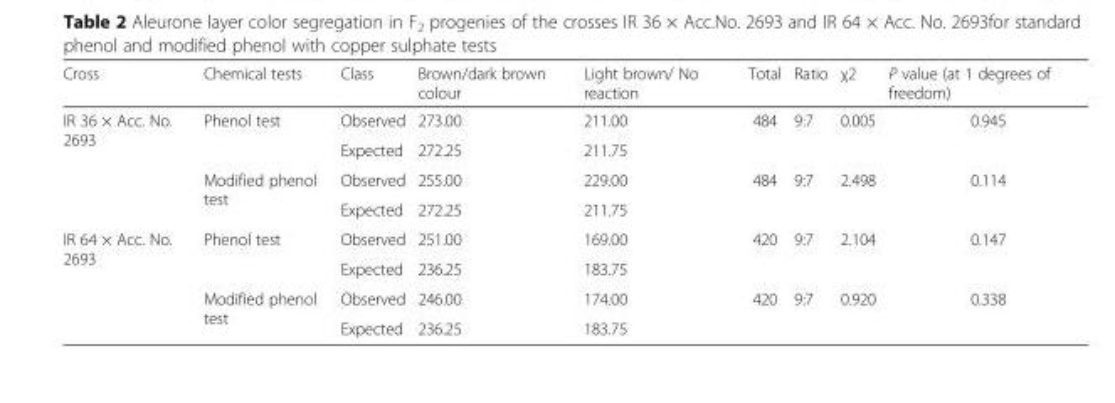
<table><thead><tr><td>Cross</td><td>Chemical tests</td><td>Class</td><td>Brown/dark brown colour</td><td>Light brown/ No reaction</td><td>Total</td><td>Ratio</td><td>χ2</td><td>P value (at 1 degrees of freedom)</td></tr></thead><tbody><tr><td rowspan="4">IR 36 × Acc. No. 2693</td><td rowspan="2">Phenol test</td><td>Observed</td><td>273.00</td><td>211.00</td><td rowspan="2">484</td><td rowspan="2">9:7</td><td rowspan="2">0.005</td><td rowspan="2">0.945</td></tr><tr><td>Expected</td><td>272.25</td><td>211.75</td></tr><tr><td rowspan="2">Modified phenol test</td><td>Observed</td><td>255.00</td><td>229.00</td><td rowspan="2">484</td><td rowspan="2">9:7</td><td rowspan="2">2.498</td><td rowspan="2">0.114</td></tr><tr><td>Expected</td><td>272.25</td><td>211.75</td></tr><tr><td rowspan="4">IR 64 × Acc. No. 2693</td><td rowspan="2">Phenol test</td><td>Observed</td><td>251.00</td><td>169.00</td><td rowspan="2">420</td><td rowspan="2">9:7</td><td rowspan="2">2.104</td><td rowspan="2">0.147</td></tr><tr><td>Expected</td><td>236.25</td><td>183.75</td></tr><tr><td rowspan="2">Modified phenol test</td><td>Observed</td><td>246.00</td><td>174.00</td><td rowspan="2">420</td><td rowspan="2">9:7</td><td rowspan="2">0.920</td><td rowspan="2">0.338</td></tr><tr><td>Expected</td><td>236.25</td><td>183.75</td></tr></tbody></table>